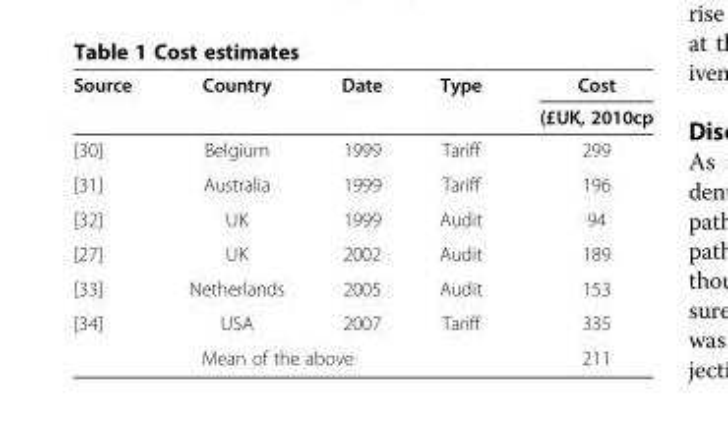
<table><thead><tr><td rowspan="2">Source</td><td rowspan="2">Country</td><td rowspan="2">Date</td><td rowspan="2">Type</td><td rowspan="2">Cost (£UK, 2010cp</td></tr><tr></tr></thead><tbody><tr><td>[30]</td><td>Belgium</td><td>1999</td><td>Tariff</td><td>299</td></tr><tr><td>[31]</td><td>Australia</td><td>1999</td><td>Tariff</td><td>196</td></tr><tr><td>[32]</td><td>UK</td><td>1999</td><td>Audit</td><td>94</td></tr><tr><td>[27]</td><td>UK</td><td>2002</td><td>Audit</td><td>189</td></tr><tr><td>[33]</td><td>Netherlands</td><td>2005</td><td>Audit</td><td>153</td></tr><tr><td>[34]</td><td>USA</td><td>2007</td><td>Tariff</td><td>335</td></tr><tr><td colspan="4">Mean of the above</td><td>211</td></tr></tbody></table>